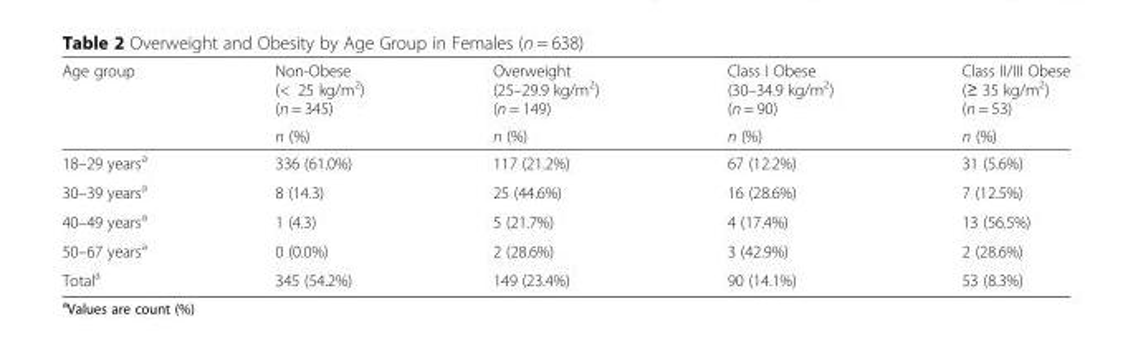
<table><thead><tr><td rowspan="2">Age group</td><td rowspan="2">Non-Obese (&lt; 25 kg/m<sup>2</sup>) (n = 345) n (%)</td><td rowspan="2">Overweight (25–29.9 kg/m<sup>2</sup>) (n = 149) n (%)</td><td rowspan="2">Class I Obese (30–34.9 kg/m<sup>2</sup>) (n = 90) n (%)</td><td rowspan="2">Class II/III Obese (≥ 35 kg/m<sup>2</sup>) (n = 53) n (%)</td></tr><tr></tr></thead><tbody><tr><td>18–29 years<sup>a</sup></td><td>336 (61.0%)</td><td>117 (21.2%)</td><td>67 (12.2%)</td><td>31 (5.6%)</td></tr><tr><td>30–39 years<sup>a</sup></td><td>8 (14.3)</td><td>25 (44.6%)</td><td>16 (28.6%)</td><td>7 (12.5%)</td></tr><tr><td>40–49 years<sup>a</sup></td><td>1 (4.3)</td><td>5 (21.7%)</td><td>4 (17.4%)</td><td>13 (56.5%)</td></tr><tr><td>50–67 years<sup>a</sup></td><td>0 (0.0%)</td><td>2 (28.6%)</td><td>3 (42.9%)</td><td>2 (28.6%)</td></tr><tr><td>Total<sup>a</sup></td><td>345 (54.2%)</td><td>149 (23.4%)</td><td>90 (14.1%)</td><td>53 (8.3%)</td></tr></tbody></table>